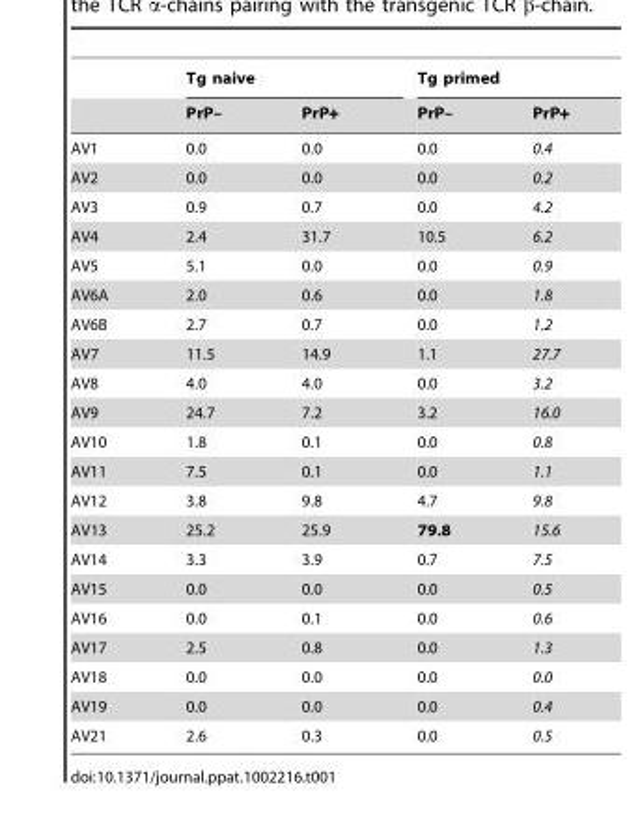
<table><thead><tr><td rowspan="2"></td><td colspan="2">Tg naive</td><td colspan="2">Tg primed</td></tr><tr><td>PrP–</td><td>PrP+</td><td>PrP–</td><td>PrP+</td></tr></thead><tbody><tr><td>AV1</td><td>0.0</td><td>0.0</td><td>0.0</td><td>0.4</td></tr><tr><td>AV2</td><td>0.0</td><td>0.0</td><td>0.0</td><td>0.2</td></tr><tr><td>AV3</td><td>0.9</td><td>0.7</td><td>0.0</td><td>4.2</td></tr><tr><td>AV4</td><td>2.4</td><td>31.7</td><td>10.5</td><td>6.2</td></tr><tr><td>AV5</td><td>5.1</td><td>0.0</td><td>0.0</td><td>0.9</td></tr><tr><td>AV6A</td><td>2.0</td><td>0.6</td><td>0.0</td><td>1.8</td></tr><tr><td>AV6B</td><td>2.7</td><td>0.7</td><td>0.0</td><td>1.2</td></tr><tr><td>AV7</td><td>11.5</td><td>14.9</td><td>1.1</td><td>27.7</td></tr><tr><td>AV8</td><td>4.0</td><td>4.0</td><td>0.0</td><td>3.2</td></tr><tr><td>AV9</td><td>24.7</td><td>7.2</td><td>3.2</td><td>16.0</td></tr><tr><td>AV10</td><td>1.8</td><td>0.1</td><td>0.0</td><td>0.8</td></tr><tr><td>AV11</td><td>7.5</td><td>0.1</td><td>0.0</td><td>1.1</td></tr><tr><td>AV12</td><td>3.8</td><td>9.8</td><td>4.7</td><td>9.8</td></tr><tr><td>AV13</td><td>25.2</td><td>25.9</td><td>79.8</td><td>15.6</td></tr><tr><td>AV14</td><td>3.3</td><td>3.9</td><td>0.7</td><td>7.5</td></tr><tr><td>AV15</td><td>0.0</td><td>0.0</td><td>0.0</td><td>0.5</td></tr><tr><td>AV16</td><td>0.0</td><td>0.1</td><td>0.0</td><td>0.6</td></tr><tr><td>AV17</td><td>2.5</td><td>0.8</td><td>0.0</td><td>1.3</td></tr><tr><td>AV18</td><td>0.0</td><td>0.0</td><td>0.0</td><td>0.0</td></tr><tr><td>AV19</td><td>0.0</td><td>0.0</td><td>0.0</td><td>0.4</td></tr><tr><td>AV21</td><td>2.6</td><td>0.3</td><td>0.0</td><td>0.5</td></tr></tbody></table>